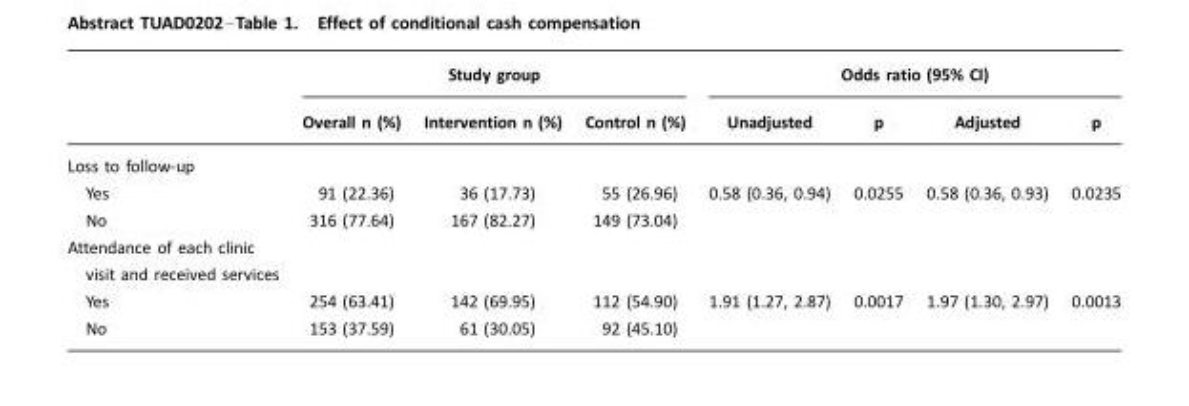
<table><thead><tr><td rowspan="2"></td><td colspan="3">Study group</td><td colspan="4">Odds ratio (95% CI)</td></tr><tr><td>Overall n (%)</td><td>Intervention n (%)</td><td>Control n (%)</td><td>Unadjusted</td><td>p</td><td>Adjusted</td><td>p</td></tr></thead><tbody><tr><td colspan="8">Loss to follow-up</td></tr><tr><td>Yes</td><td>91 (22.36)</td><td>36 (17.73)</td><td>55 (26.96)</td><td>0.58 (0.36, 0.94)</td><td>0.0255</td><td>0.58 (0.36, 0.93)</td><td>0.0235</td></tr><tr><td>No</td><td>316 (77.64)</td><td>167 (82.27)</td><td>149 (73.04)</td><td></td><td></td><td></td><td></td></tr><tr><td colspan="8">Attendance of each clinic visit and received services</td></tr><tr><td>Yes</td><td>254 (63.41)</td><td>142 (69.95)</td><td>112 (54.90)</td><td>1.91 (1.27, 2.87)</td><td>0.0017</td><td>1.97 (1.30, 2.97)</td><td>0.0013</td></tr><tr><td>No</td><td>153 (37.59)</td><td>61 (30.05)</td><td>92 (45.10)</td><td></td><td></td><td></td><td></td></tr></tbody></table>